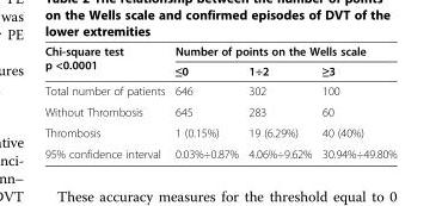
<table><thead><tr><td rowspan="2">Chi-square test p &lt;0.0001</td><td colspan="3">Number of points on the Wells scale</td></tr><tr><td>≤0</td><td>1÷2</td><td>≥3</td></tr></thead><tbody><tr><td>Total number of patients</td><td>646</td><td>302</td><td>100</td></tr><tr><td>Without Thrombosis</td><td>645</td><td>283</td><td>60</td></tr><tr><td>Thrombosis</td><td>1 (0.15%)</td><td>19 (6.29%)</td><td>40 (40%)</td></tr><tr><td>95% confidence interval</td><td>0.03%÷0.87%</td><td>4.06%÷9.62%</td><td>30.94%÷49.80%</td></tr></tbody></table>